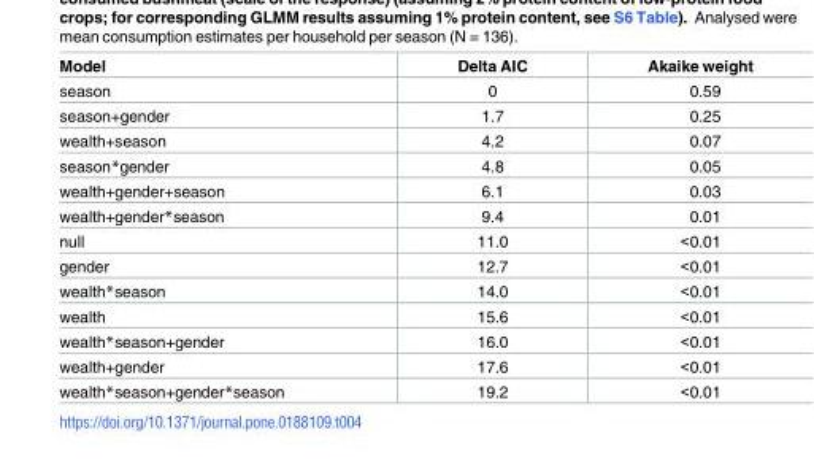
<table><thead><tr><td>Model</td><td>Delta AIC</td><td>Akaike weight</td></tr></thead><tbody><tr><td>season</td><td>0</td><td>0.59</td></tr><tr><td>season+gender</td><td>1.7</td><td>0.25</td></tr><tr><td>wealth+season</td><td>4.2</td><td>0.07</td></tr><tr><td>season*gender</td><td>4.8</td><td>0.05</td></tr><tr><td>wealth+gender+season</td><td>6.1</td><td>0.03</td></tr><tr><td>wealth+gender*season</td><td>9.4</td><td>0.01</td></tr><tr><td>null</td><td>11.0</td><td>&lt;0.01</td></tr><tr><td>gender</td><td>12.7</td><td>&lt;0.01</td></tr><tr><td>wealth*season</td><td>14.0</td><td>&lt;0.01</td></tr><tr><td>wealth</td><td>15.6</td><td>&lt;0.01</td></tr><tr><td>wealth*season+gender</td><td>16.0</td><td>&lt;0.01</td></tr><tr><td>wealth+gender</td><td>17.6</td><td>&lt;0.01</td></tr><tr><td>wealth*season+gender*season</td><td>19.2</td><td>&lt;0.01</td></tr></tbody></table>